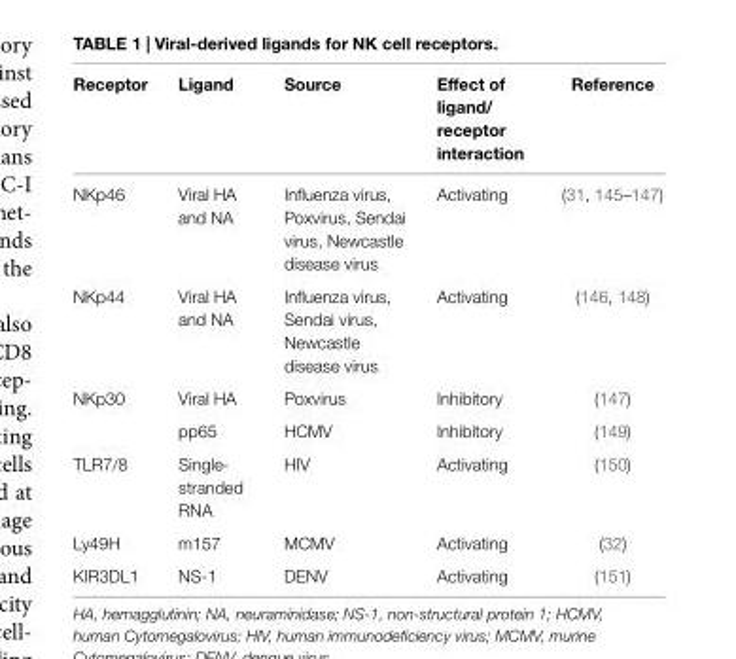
<table><thead><tr><td>Receptor</td><td>Ligand</td><td>Source</td><td>effect of ligand/ receptor interaction</td><td>Reference</td></tr></thead><tbody><tr><td>NKp46</td><td>Viral HA and NA</td><td>Influenza virus, Poxvirus, Sendai virus, Newcastle disease virus</td><td>Activating</td><td>(31, 145–147)</td></tr><tr><td>NKp44</td><td>Viral HA and NA</td><td>Influenza virus, Sendai virus, Newcastle disease virus</td><td>Activating</td><td>(146, 148)</td></tr><tr><td rowspan="2">NKp30</td><td>Viral HA</td><td>Poxvirus</td><td>Inhibitory</td><td>(147)</td></tr><tr><td>pp65</td><td>HCMV</td><td>Inhibitory</td><td>(149)</td></tr><tr><td>TLR7/8</td><td>Single- stranded RNA</td><td>HIV</td><td>Activating</td><td>(150)</td></tr><tr><td>Ly49H</td><td>m157</td><td>MCMV</td><td>Activating</td><td>(32)</td></tr><tr><td>KIR3DL1</td><td>NS-1</td><td>DENV</td><td>Activating</td><td>(151)</td></tr></tbody></table>